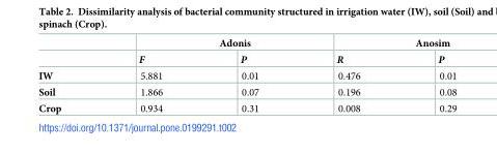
<table><thead><tr><td rowspan="2"></td><td colspan="2">Adonis</td><td colspan="2">Anosim</td></tr><tr><td>F</td><td>P</td><td>R</td><td>P</td></tr></thead><tbody><tr><td>IW</td><td>5.881</td><td>0.01</td><td>0.476</td><td>0.01</td></tr><tr><td>Soil</td><td>1.866</td><td>0.07</td><td>0.196</td><td>0.08</td></tr><tr><td>Crop</td><td>0.934</td><td>0.31</td><td>0.008</td><td>0.29</td></tr></tbody></table>